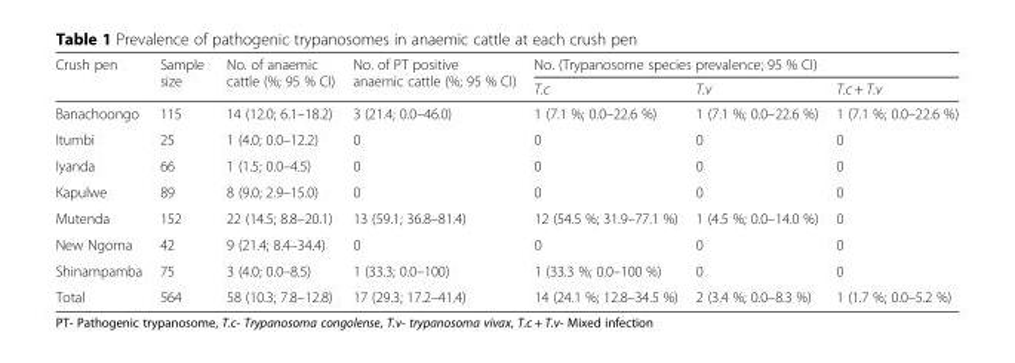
<table><thead><tr><td rowspan="2">Crush pen</td><td rowspan="2">Sample size</td><td rowspan="2">No. of anaemic cattle (%; 95 % CI)</td><td rowspan="2">No. of PT positive anaemic cattle (%; 95 % CI)</td><td colspan="3">No. (Trypanosome species prevalence; 95 % CI)</td></tr><tr><td>T.c</td><td>T.v</td><td>T.c + T.v</td></tr></thead><tbody><tr><td>Banachoongo</td><td>115</td><td>14 (12.0; 6.1–18.2)</td><td>3 (21.4; 0.0–46.0)</td><td>1 (7.1 %; 0.0–22.6 %)</td><td>1 (7.1 %; 0.0–22.6 %)</td><td>1 (7.1 %; 0.0–22.6 %)</td></tr><tr><td>Itumbi</td><td>25</td><td>1 (4.0; 0.0–12.2)</td><td>0</td><td>0</td><td>0</td><td>0</td></tr><tr><td>Iyanda</td><td>66</td><td>1 (1.5; 0.0–4.5)</td><td>0</td><td>0</td><td>0</td><td>0</td></tr><tr><td>Kapulwe</td><td>89</td><td>8 (9.0; 2.9–15.0)</td><td>0</td><td>0</td><td>0</td><td>0</td></tr><tr><td>Mutenda</td><td>152</td><td>22 (14.5; 8.8–20.1)</td><td>13 (59.1; 36.8–81.4)</td><td>12 (54.5 %; 31.9–77.1 %)</td><td>1 (4.5 %; 0.0–14.0 %)</td><td>0</td></tr><tr><td>New Ngoma</td><td>42</td><td>9 (21.4; 8.4–34.4)</td><td>0</td><td>0</td><td>0</td><td>0</td></tr><tr><td>Shinampamba</td><td>75</td><td>3 (4.0; 0.0–8.5)</td><td>1 (33.3; 0.0–100)</td><td>1 (33.3 %; 0.0–100 %)</td><td>0</td><td>0</td></tr><tr><td>Total</td><td>564</td><td>58 (10.3; 7.8–12.8)</td><td>17 (29.3; 17.2–41.4)</td><td>14 (24.1 %; 12.8–34.5 %)</td><td>2 (3.4 %; 0.0–8.3 %)</td><td>1 (1.7 %; 0.0–5.2 %)</td></tr></tbody></table>